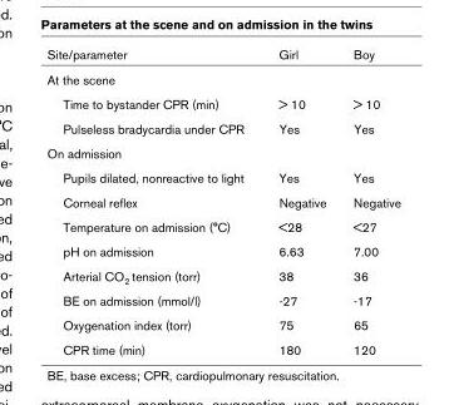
<table><thead><tr><td>Site/parameter</td><td>Girl</td><td>Boy</td></tr></thead><tbody><tr><td colspan="3">At the scene</td></tr><tr><td>Time to bystander CPR (min)</td><td>&gt; 10</td><td>&gt; 10</td></tr><tr><td>Pulseless bradycardia under CPR</td><td>Yes</td><td>Yes</td></tr><tr><td colspan="3">On admission</td></tr><tr><td>Pupils dilated, nonreactive to light</td><td>Yes</td><td>Yes</td></tr><tr><td>Corneal reflex</td><td>Negative</td><td>Negative</td></tr><tr><td>Temperature on admission (°C)</td><td>&lt;28</td><td>&lt;27</td></tr><tr><td>pH on admission</td><td>6.63</td><td>7.00</td></tr><tr><td>Arterial CO2 tension (torr)</td><td>38</td><td>36</td></tr><tr><td>BE on admission (mmol/l)</td><td>-27</td><td>-17</td></tr><tr><td>Oxygenation index (torr)</td><td>75</td><td>65</td></tr><tr><td>CPR time (min)</td><td>180</td><td>120</td></tr></tbody></table>